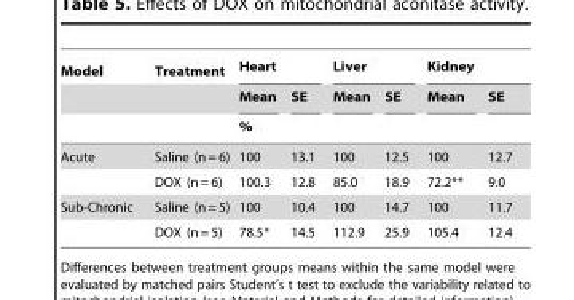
<table><thead><tr><td rowspan="3">Model</td><td rowspan="3">Treatment</td><td colspan="2">Heart</td><td colspan="2">Liver</td><td colspan="2">Kidney</td></tr><tr><td>Mean</td><td>SE</td><td>Mean</td><td>SE</td><td>Mean</td><td>SE</td></tr><tr><td colspan="6">%</td></tr></thead><tbody><tr><td rowspan="2">Acute</td><td>Saline (n = 6)</td><td>100</td><td>13.1</td><td>100</td><td>12.5</td><td>100</td><td>12.7</td></tr><tr><td>DOX (n = 6)</td><td>100.3</td><td>12.8</td><td>85.0</td><td>18.9</td><td>72.2**</td><td>9.0</td></tr><tr><td rowspan="2">Sub-Chronic</td><td>Saline (n = 5)</td><td>100</td><td>10.4</td><td>100</td><td>14.7</td><td>100</td><td>11.7</td></tr><tr><td>DOX (n = 5)</td><td>78.5*</td><td>14.5</td><td>112.9</td><td>25.9</td><td>105.4</td><td>12.4</td></tr></tbody></table>